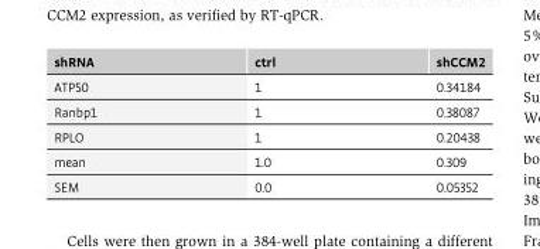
<table><thead><tr><td>shRNA</td><td>ctrl</td><td>shCCM2</td></tr></thead><tbody><tr><td>ATP50</td><td>1</td><td>0.34184</td></tr><tr><td>Ranbp1</td><td>1</td><td>0.38087</td></tr><tr><td>RPLO</td><td>1</td><td>0.20438</td></tr><tr><td>mean</td><td>1.0</td><td>0.309</td></tr><tr><td>SEM</td><td>0.0</td><td>0.05352</td></tr></tbody></table>